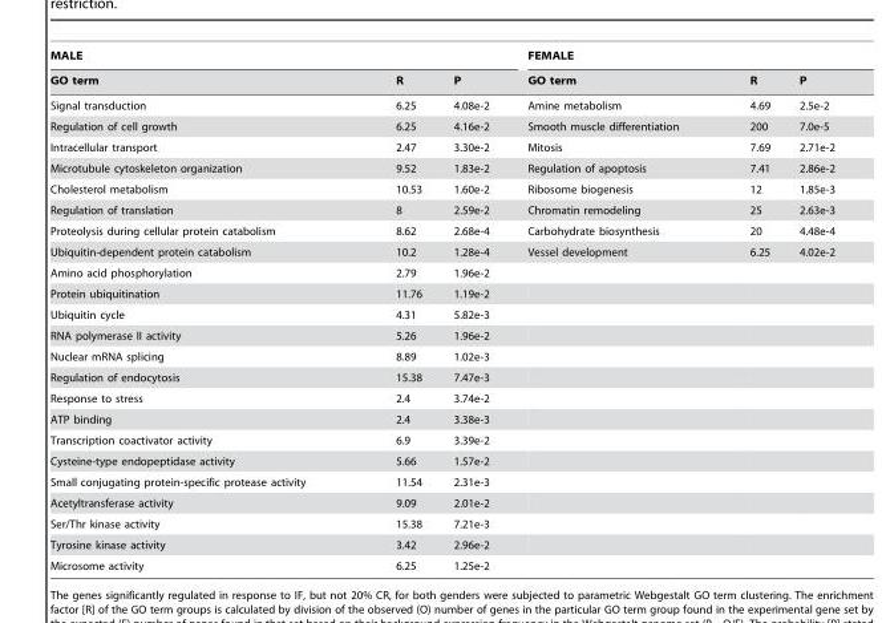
<table><thead><tr><td colspan="3">MALE</td><td colspan="3">FEMALE</td></tr><tr><td>GO term</td><td>R</td><td>P</td><td>GO term</td><td>R</td><td>P</td></tr></thead><tbody><tr><td>Signal transduction</td><td>6.25</td><td>4.08e-2</td><td>Amine metabolism</td><td>4.69</td><td>2.5e-2</td></tr><tr><td>Regulation of cell growth</td><td>6.25</td><td>4.16e-2</td><td>Smooth muscle differentiation</td><td>200</td><td>7.0e-5</td></tr><tr><td>Intracellular transport</td><td>2.47</td><td>3.30e-2</td><td>Mitosis</td><td>7.69</td><td>2.71e-2</td></tr><tr><td>Microtubule cytoskeleton organization</td><td>9.52</td><td>1.83e-2</td><td>Regulation of apoptosis</td><td>7.41</td><td>2.86e-2</td></tr><tr><td>Cholesterol metabolism</td><td>10.53</td><td>1.60e-2</td><td>Ribosome biogenesis</td><td>12</td><td>1.85e-3</td></tr><tr><td>Regulation of translation</td><td>8</td><td>2.59e-2</td><td>Chromatin remodeling</td><td>25</td><td>2.63e-3</td></tr><tr><td>Proteolysis during cellular protein catabolism</td><td>8.62</td><td>2.68e-4</td><td>Carbohydrate biosynthesis</td><td>20</td><td>4.48e-4</td></tr><tr><td>Ubiquitin-dependent protein catabolism</td><td>10.2</td><td>1.28e-4</td><td>Vessel development</td><td>6.25</td><td>4.02e-2</td></tr><tr><td>Amino acid phosphorylation</td><td>2.79</td><td>1.96e-2</td><td></td><td></td><td></td></tr><tr><td>Protein ubiquitination</td><td>11.76</td><td>1.19e-2</td><td></td><td></td><td></td></tr><tr><td>Ubiquitin cycle</td><td>4.31</td><td>5.82e-3</td><td></td><td></td><td></td></tr><tr><td>RNA polymerase II activity</td><td>5.26</td><td>1.96e-2</td><td></td><td></td><td></td></tr><tr><td>Nuclear mRNA splicing</td><td>8.89</td><td>1.02e-3</td><td></td><td></td><td></td></tr><tr><td>Regulation of endocytosis</td><td>15.38</td><td>7.47e-3</td><td></td><td></td><td></td></tr><tr><td>Response to stress</td><td>2.4</td><td>3.74e-2</td><td></td><td></td><td></td></tr><tr><td>ATP binding</td><td>2.4</td><td>3.38e-3</td><td></td><td></td><td></td></tr><tr><td>Transcription coactivator activity</td><td>6.9</td><td>3.39e-2</td><td></td><td></td><td></td></tr><tr><td>Cysteine-type endopeptidase activity</td><td>5.66</td><td>1.57e-2</td><td></td><td></td><td></td></tr><tr><td>Small conjugating protein-specific protease activity</td><td>11.54</td><td>2.31e-3</td><td></td><td></td><td></td></tr><tr><td>Acetyltransferase activity</td><td>9.09</td><td>2.01e-2</td><td></td><td></td><td></td></tr><tr><td>Ser/Thr kinase activity</td><td>15.38</td><td>7.21e-3</td><td></td><td></td><td></td></tr><tr><td>Tyrosine kinase activity</td><td>3.42</td><td>2.96e-2</td><td></td><td></td><td></td></tr><tr><td>Microsome activity</td><td>6.25</td><td>1.25e-2</td><td></td><td></td><td></td></tr></tbody></table>